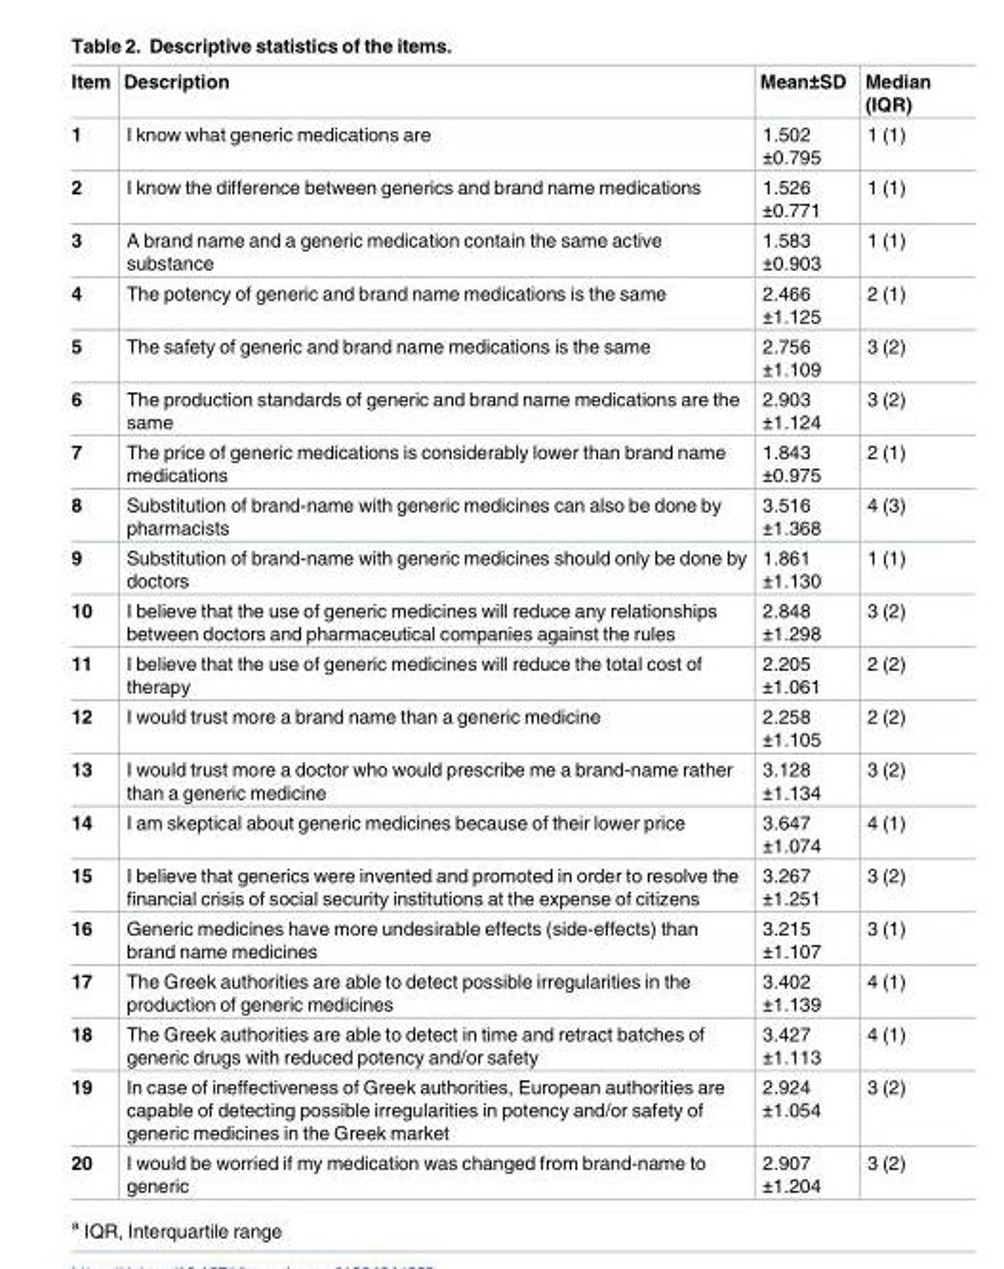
<table><thead><tr><td>Item</td><td>Description</td><td>Mean±SD</td><td>Median (IQR)</td></tr></thead><tbody><tr><td>1</td><td>I know what generic medications are</td><td>1.502 ±0.795</td><td>1 (1)</td></tr><tr><td>2</td><td>I know the difference between generics and brand name medications</td><td>1.526 ±0.771</td><td>1 (1)</td></tr><tr><td>3</td><td>A brand name and a generic medication contain the same active substance</td><td>1.583 ±0.903</td><td>1 (1)</td></tr><tr><td>4</td><td>The potency of generic and brand name medications is the same</td><td>2.466 ±1.125</td><td>2 (1)</td></tr><tr><td>5</td><td>The safety of generic and brand name medications is the same</td><td>2.756 ±1.109</td><td>3 (2)</td></tr><tr><td>6</td><td>The production standards of generic and brand name medications are the same</td><td>2.903 ±1.124</td><td>3 (2)</td></tr><tr><td>7</td><td>The price of generic medications is considerably lower than brand name medications</td><td>1.843 ±0.975</td><td>2 (1)</td></tr><tr><td>8</td><td>Substitution of brand-name with generic medicines can also be done by pharmacists</td><td>3.516 ±1.368</td><td>4 (3)</td></tr><tr><td>9</td><td>Substitution of brand-name with generic medicines should only be done by doctors</td><td>1.861 ±1.130</td><td>1 (1)</td></tr><tr><td>10</td><td>I believe that the use of generic medicines will reduce any relationships between doctors and pharmaceutical companies against the rules</td><td>2.848 ±1.298</td><td>3 (2)</td></tr><tr><td>11</td><td>I believe that the use of generic medicines will reduce the total cost of therapy</td><td>2.205 ±1.061</td><td>2 (2)</td></tr><tr><td>12</td><td>I would trust more a brand name than a generic medicine</td><td>2.258 ±1.105</td><td>2 (2)</td></tr><tr><td>13</td><td>I would trust more a doctor who would prescribe me a brand-name rather than a generic medicine</td><td>3.128 ±1.134</td><td>3 (2)</td></tr><tr><td>14</td><td>I am skeptical about generic medicines because of their lower price</td><td>3.647 ±1.074</td><td>4 (1)</td></tr><tr><td>15</td><td>I believe that generics were invented and promoted in order to resolve the financial crisis of social security institutions at the expense of citizens</td><td>3.267 ±1.251</td><td>3 (2)</td></tr><tr><td>16</td><td>Generic medicines have more undesirable effects (side-effects) than brand name medicines</td><td>3.215 ±1.107</td><td>3 (1)</td></tr><tr><td>17</td><td>The Greek authorities are able to detect possible irregularities in the production of generic medicines</td><td>3.402 ±1.139</td><td>4 (1)</td></tr><tr><td>18</td><td>The Greek authorities are able to detect in time and retract batches of generic drugs with reduced potency and/or safety</td><td>3.427 ±1.113</td><td>4 (1)</td></tr><tr><td>19</td><td>In case of ineffectiveness of Greek authorities, European authorities are capable of detecting possible irregularities in potency and/or safety of generic medicines in the Greek market</td><td>2.924 ±1.054</td><td>3 (2)</td></tr><tr><td>20</td><td>I would be worried if my medication was changed from brand-name to generic</td><td>2.907 ±1.204</td><td>3 (2)</td></tr></tbody></table>